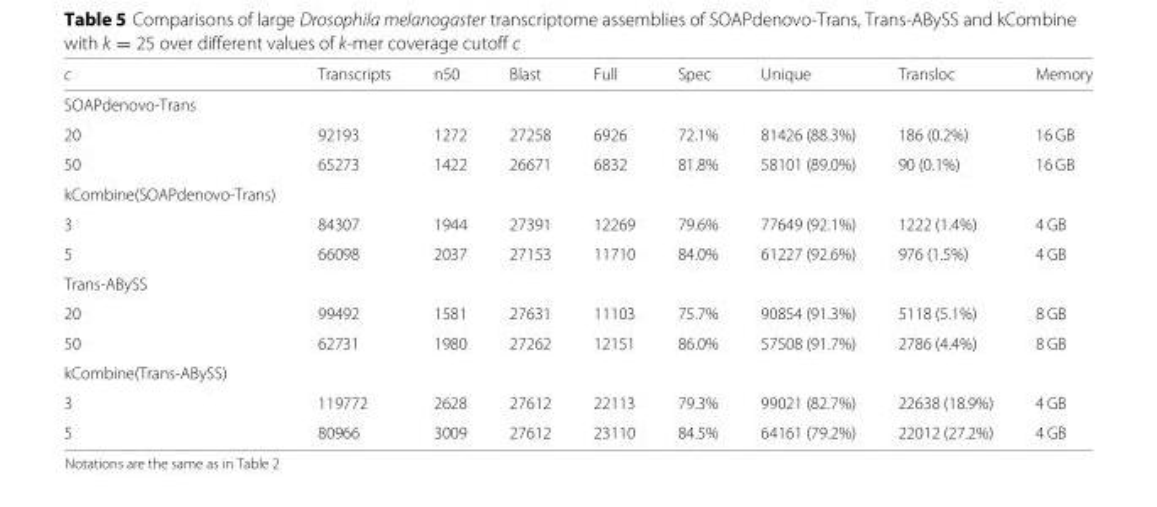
<table><thead><tr><td>c</td><td>Transcripts</td><td>n50</td><td>Blast</td><td>Full</td><td>Spec</td><td>Unique</td><td>Transloc</td><td>Memory</td></tr></thead><tbody><tr><td colspan="9">SOAPdenovo-Trans</td></tr><tr><td>20</td><td>92193</td><td>1272</td><td>27258</td><td>6926</td><td>72.1%</td><td>81426 (88.3%)</td><td>186 (0.2%)</td><td>16 GB</td></tr><tr><td>50</td><td>65273</td><td>1422</td><td>26671</td><td>6832</td><td>81.8%</td><td>58101 (89.0%)</td><td>90 (0.1%)</td><td>16 GB</td></tr><tr><td colspan="9">kCombine(SOAPdenovo-Trans)</td></tr><tr><td>3</td><td>84307</td><td>1944</td><td>27391</td><td>12269</td><td>79.6%</td><td>77649 (92.1%)</td><td>1222 (1.4%)</td><td>4 GB</td></tr><tr><td>5</td><td>66098</td><td>2037</td><td>27153</td><td>11710</td><td>84.0%</td><td>61227 (92.6%)</td><td>976 (1.5%)</td><td>4 GB</td></tr><tr><td colspan="9">Trans-ABySS</td></tr><tr><td>20</td><td>99492</td><td>1581</td><td>27631</td><td>11103</td><td>75.7%</td><td>90854 (91.3%)</td><td>5118 (5.1%)</td><td>8 GB</td></tr><tr><td>50</td><td>62731</td><td>1980</td><td>27262</td><td>12151</td><td>86.0%</td><td>57508 (91.7%)</td><td>2786 (4.4%)</td><td>8 GB</td></tr><tr><td colspan="9">kCombine(Trans-ABySS)</td></tr><tr><td>3</td><td>119772</td><td>2628</td><td>27612</td><td>22113</td><td>79.3%</td><td>99021 (82.7%)</td><td>22638 (18.9%)</td><td>4 GB</td></tr><tr><td>5</td><td>80966</td><td>3009</td><td>27612</td><td>23110</td><td>84.5%</td><td>64161 (79.2%)</td><td>22012 (27.2%)</td><td>4 GB</td></tr></tbody></table>